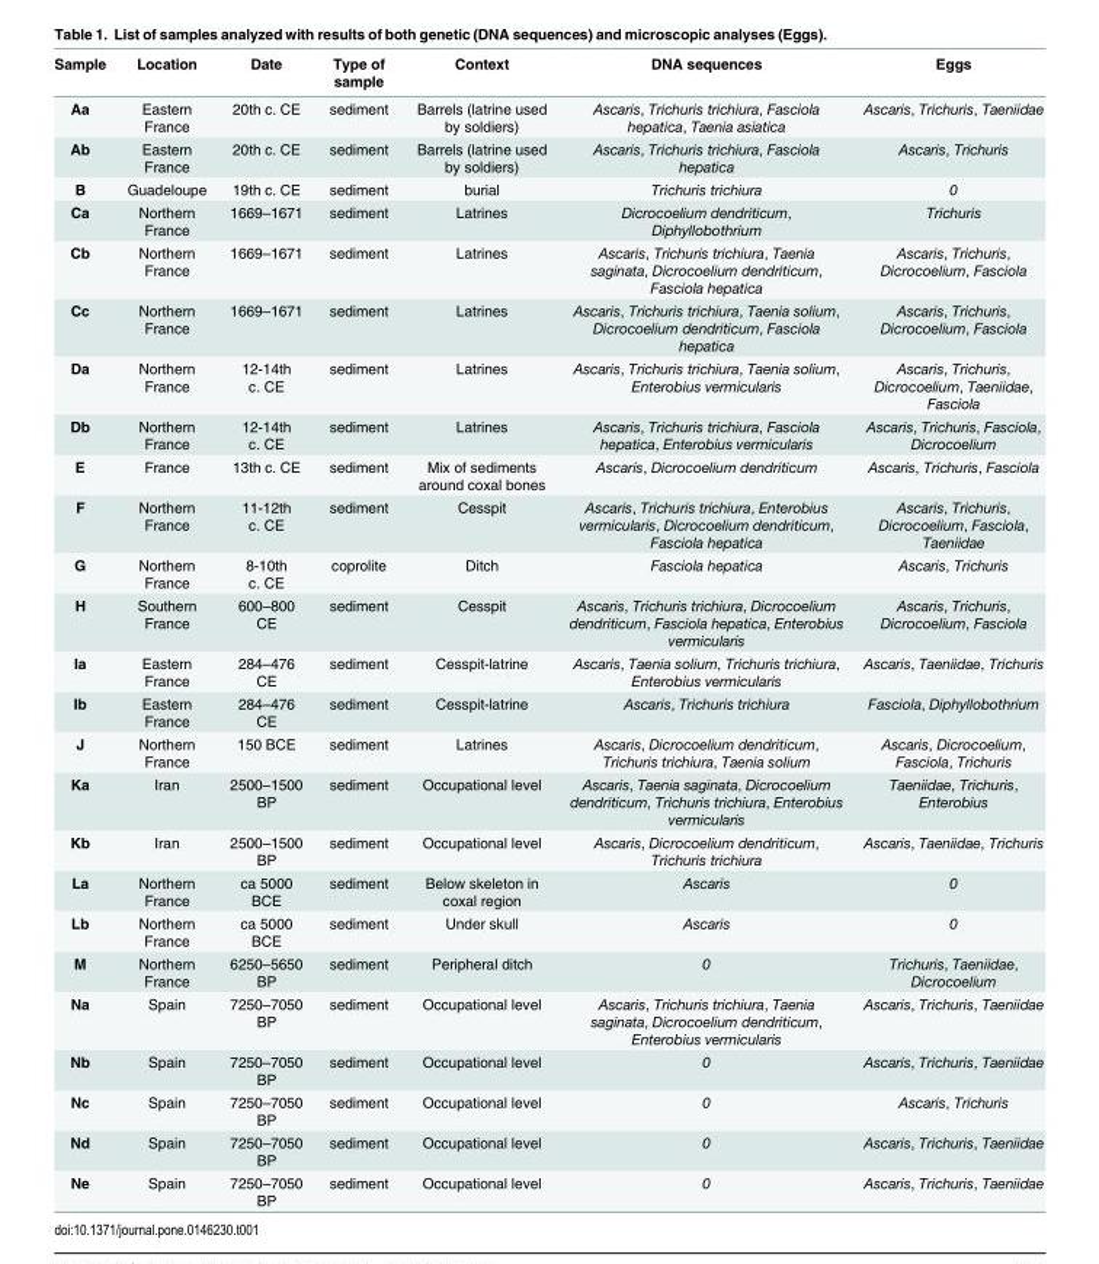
<table><thead><tr><td>Sample</td><td>Location</td><td>Date</td><td>Type of sample</td><td>Context</td><td>DNA sequences</td><td>Eggs</td></tr></thead><tbody><tr><td>Aa</td><td>Eastern France</td><td>20th c. CE</td><td>sediment</td><td>Barrels (latrine used by soldiers)</td><td>Ascaris, Trichuris trichiura, Fasciola hepatica, Taenia asiatica</td><td>Ascaris, Trichuris, Taeniidae</td></tr><tr><td>Ab</td><td>Eastern France</td><td>20th c. CE</td><td>sediment</td><td>Barrels (latrine used by soldiers)</td><td>Ascaris, Trichuris trichiura, Fasciola hepatica</td><td>Ascaris, Trichuris</td></tr><tr><td>B</td><td>Guadeloupe</td><td>19th c. CE</td><td>sediment</td><td>burial</td><td>Trichuris trichiura</td><td>0</td></tr><tr><td>Ca</td><td>Northern France</td><td>1669–1671</td><td>sediment</td><td>Latrines</td><td>Dicrocoelium dendriticum, Diphyllobothrium</td><td>Trichuris</td></tr><tr><td>Cb</td><td>Northern France</td><td>1669–1671</td><td>sediment</td><td>Latrines</td><td>Ascaris, Trichuris trichiura, Taenia saginata, Dicrocoelium dendriticum, Fasciola hepatica</td><td>Ascaris, Trichuris, Dicrocoelium, Fasciola</td></tr><tr><td>Cc</td><td>Northern France</td><td>1669–1671</td><td>sediment</td><td>Latrines</td><td>Ascaris, Trichuris trichiura, Taenia solium, Dicrocoelium dendriticum, Fasciola hepatica</td><td>Ascaris, Trichuris, Dicrocoelium, Fasciola</td></tr><tr><td>Da</td><td>Northern France</td><td>12-14th c. CE</td><td>sediment</td><td>Latrines</td><td>Ascaris, Trichuris trichiura, Taenia solium, Enterobius vermicularis</td><td>Ascaris, Trichuris, Dicrocoelium, Taeniidae, Fasciola</td></tr><tr><td>Db</td><td>Northern France</td><td>12-14th c. CE</td><td>sediment</td><td>Latrines</td><td>Ascaris, Trichuris trichiura, Fasciola hepatica, Enterobius vermicularis</td><td>Ascaris, Trichuris, Fasciola, Dicrocoelium</td></tr><tr><td>E</td><td>France</td><td>13th c. CE</td><td>sediment</td><td>Mix of sediments around coxal bones</td><td>Ascaris, Dicrocoelium dendriticum</td><td>Ascaris, Trichuris, Fasciola</td></tr><tr><td>F</td><td>Northern France</td><td>11-12th c. CE</td><td>sediment</td><td>Cesspit</td><td>Ascaris, Trichuris trichiura, Enterobius vermicularis, Dicrocoelium dendriticum, Fasciola hepatica</td><td>Ascaris, Trichuris, Dicrocoelium, Fasciola, Taeniidae</td></tr><tr><td>G</td><td>Northern France</td><td>8-10th c. CE</td><td>coprolite</td><td>Ditch</td><td>Fasciola hepatica</td><td>Ascaris, Trichuris</td></tr><tr><td>H</td><td>Southern France</td><td>600–800 CE</td><td>sediment</td><td>Cesspit</td><td>Ascaris, Trichuris trichiura, Dicrocoelium dendriticum, Fasciola hepatica, Enterobius vermicularis</td><td>Ascaris, Trichuris, Dicrocoelium, Fasciola</td></tr><tr><td>Ia</td><td>Eastern France</td><td>284–476 CE</td><td>sediment</td><td>Cesspit-latrine</td><td>Ascaris, Taenia solium, Trichuris trichiura, Enterobius vermicularis</td><td>Ascaris, Taeniidae, Trichuris</td></tr><tr><td>Ib</td><td>Eastern France</td><td>284–476 CE</td><td>sediment</td><td>Cesspit-latrine</td><td>Ascaris, Trichuris trichiura</td><td>Fasciola, Diphyllobothrium</td></tr><tr><td>J</td><td>Northern France</td><td>150 BCE</td><td>sediment</td><td>Latrines</td><td>Ascaris, Dicrocoelium dendriticum, Trichuris trichiura, Taenia solium</td><td>Ascaris, Dicrocoelium, Fasciola, Trichuris</td></tr><tr><td>Ka</td><td>Iran</td><td>2500–1500 BP</td><td>sediment</td><td>Occupational level</td><td>Ascaris, Taenia saginata, Dicrocoelium dendriticum, Trichuris trichiura, Enterobius vermicularis</td><td>Taeniidae, Trichuris, Enterobius</td></tr><tr><td>Kb</td><td>Iran</td><td>2500–1500 BP</td><td>sediment</td><td>Occupational level</td><td>Ascaris, Dicrocoelium dendriticum, Trichuris trichiura</td><td>Ascaris, Taeniidae, Trichuris</td></tr><tr><td>La</td><td>Northern France</td><td>ca 5000 BCE</td><td>sediment</td><td>Below skeleton in coxal region</td><td>Ascaris</td><td>0</td></tr><tr><td>Lb</td><td>Northern France</td><td>ca 5000 BCE</td><td>sediment</td><td>Under skull</td><td>Ascaris</td><td>0</td></tr><tr><td>M</td><td>Northern France</td><td>6250–5650 BP</td><td>sediment</td><td>Peripheral ditch</td><td>0</td><td>Trichuris, Taeniidae, Dicrocoelium</td></tr><tr><td>Na</td><td>Spain</td><td>7250–7050 BP</td><td>sediment</td><td>Occupational level</td><td>Ascaris, Trichuris trichiura, Taenia saginata, Dicrocoelium dendriticum, Enterobius vermicularis</td><td>Ascaris, Trichuris, Taeniidae</td></tr><tr><td>Nb</td><td>Spain</td><td>7250–7050 BP</td><td>sediment</td><td>Occupational level</td><td>0</td><td>Ascaris, Trichuris, Taeniidae</td></tr><tr><td>Nc</td><td>Spain</td><td>7250–7050 BP</td><td>sediment</td><td>Occupational level</td><td>0</td><td>Ascaris, Trichuris</td></tr><tr><td>Nd</td><td>Spain</td><td>7250–7050 BP</td><td>sediment</td><td>Occupational level</td><td>0</td><td>Ascaris, Trichuris, Taeniidae</td></tr><tr><td>Ne</td><td>Spain</td><td>7250–7050 BP</td><td>sediment</td><td>Occupational level</td><td>0</td><td>Ascaris, Trichuris, Taeniidae</td></tr></tbody></table>